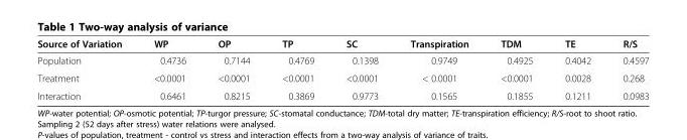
<table><thead><tr><td>Source of Variation</td><td>WP</td><td>OP</td><td>TP</td><td>SC</td><td>Transpiration</td><td>TDM</td><td>TE</td><td>R/S</td></tr></thead><tbody><tr><td>Population</td><td>0.4736</td><td>0.7144</td><td>0.4769</td><td>0.1398</td><td>0.9749</td><td>0.4925</td><td>0.4042</td><td>0.4597</td></tr><tr><td>Treatment</td><td>&lt;0.0001</td><td>&lt;0.0001</td><td>&lt;0.0001</td><td>&lt;0.0001</td><td>&lt; 0.0001</td><td>&lt;0.0001</td><td>0.0028</td><td>0.268</td></tr><tr><td>Interaction</td><td>0.6461</td><td>0.8215</td><td>0.3869</td><td>0.9773</td><td>0.1565</td><td>0.1855</td><td>0.1211</td><td>0.0983</td></tr></tbody></table>